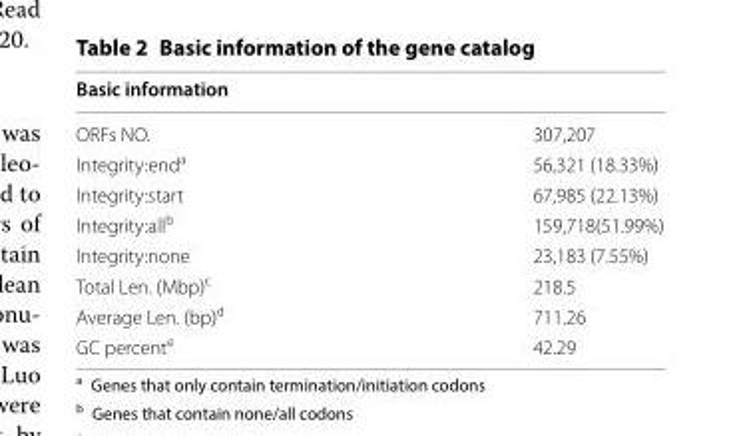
<table><thead><tr><td>Basic information</td><td></td></tr></thead><tbody><tr><td>ORFs NO.</td><td>307,207</td></tr><tr><td>Integrity:end<sup>a</sup></td><td>56,321 (18.33%)</td></tr><tr><td>Integrity:start</td><td>67,985 (22.13%)</td></tr><tr><td>Integrity:all<sup>b</sup></td><td>159,718(51.99%)</td></tr><tr><td>Integrity:none</td><td>23,183 (7.55%)</td></tr><tr><td>Total Len. (Mbp)<sup>c</sup></td><td>218.5</td></tr><tr><td>Average Len. (bp)<sup>d</sup></td><td>711.26</td></tr><tr><td>GC percent<sup>e</sup></td><td>42.29</td></tr></tbody></table>